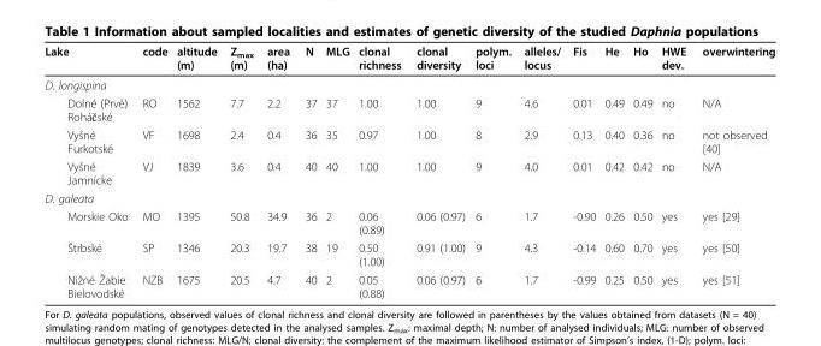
<table><thead><tr><td>Lake</td><td>code</td><td>altitude (m)</td><td>Z<sub>max</sub> (m)</td><td>area (ha)</td><td>N</td><td>MLG</td><td>clonal richness</td><td>clonal diversity</td><td>polym. loci</td><td>alleles/ locus</td><td>Fis</td><td>He</td><td>Ho</td><td>HWE dev.</td><td>overwintering</td></tr></thead><tbody><tr><td colspan="16">D. longispina</td></tr><tr><td>Dolné (Prvé) Roháčské</td><td>RO</td><td>1562</td><td>7.7</td><td>2.2</td><td>37</td><td>37</td><td>1.00</td><td>1.00</td><td>9</td><td>4.6</td><td>0.01</td><td>0.49</td><td>0.49</td><td>no</td><td>N/A</td></tr><tr><td>Vyšné Furkotské</td><td>VF</td><td>1698</td><td>2.4</td><td>0.4</td><td>36</td><td>35</td><td>0.97</td><td>1.00</td><td>8</td><td>2.9</td><td>0.13</td><td>0.40</td><td>0.36</td><td>no</td><td>not observed [40]</td></tr><tr><td>Vyšné Jamnícke</td><td>VJ</td><td>1839</td><td>3.6</td><td>0.4</td><td>40</td><td>40</td><td>1.00</td><td>1.00</td><td>9</td><td>4.0</td><td>0.01</td><td>0.42</td><td>0.42</td><td>no</td><td>N/A</td></tr><tr><td colspan="16">D. galeata</td></tr><tr><td>Morskie Oko</td><td>MO</td><td>1395</td><td>50.8</td><td>34.9</td><td>36</td><td>2</td><td>0.06 (0.89)</td><td>0.06 (0.97)</td><td>6</td><td>1.7</td><td>-0.90</td><td>0.26</td><td>0.50</td><td>yes</td><td>yes [29]</td></tr><tr><td>Štrbské</td><td>SP</td><td>1346</td><td>20.3</td><td>19.7</td><td>38</td><td>19</td><td>0.50 (1.00)</td><td>0.91 (1.00)</td><td>9</td><td>4.3</td><td>-0.14</td><td>0.60</td><td>0.70</td><td>yes</td><td>yes [50]</td></tr><tr><td>Nižné Žabie Bielovodské</td><td>NZB</td><td>1675</td><td>20.5</td><td>4.7</td><td>40</td><td>2</td><td>0.05 (0.88)</td><td>0.06 (0.97)</td><td>6</td><td>1.7</td><td>-0.99</td><td>0.25</td><td>0.50</td><td>yes</td><td>yes [51]</td></tr></tbody></table>